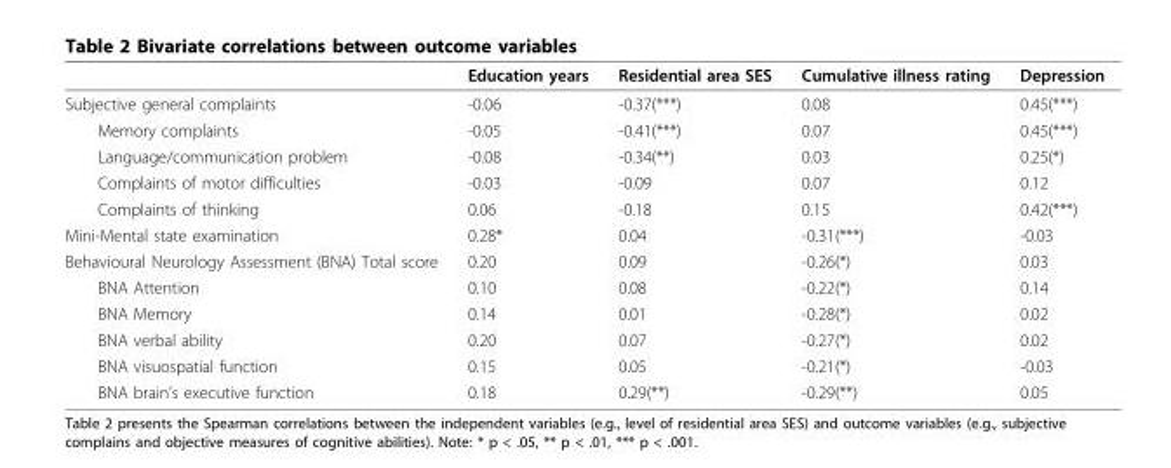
<table><thead><tr><td></td><td>Education years</td><td>Residential area SES</td><td>Cumulative illness rating</td><td>Depression</td></tr></thead><tbody><tr><td>Subjective general complaints</td><td>-0.06</td><td>-0.37(***)</td><td>0.08</td><td>0.45(***)</td></tr><tr><td>Memory complaints</td><td>-0.05</td><td>-0.41(***)</td><td>0.07</td><td>0.45(***)</td></tr><tr><td>Language/communication problem</td><td>-0.08</td><td>-0.34(**)</td><td>0.03</td><td>0.25(*)</td></tr><tr><td>Complaints of motor difficulties</td><td>-0.03</td><td>-0.09</td><td>0.07</td><td>0.12</td></tr><tr><td>Complaints of thinking</td><td>0.06</td><td>-0.18</td><td>0.15</td><td>0.42(***)</td></tr><tr><td>Mini-Mental state examination</td><td>0.28*</td><td>0.04</td><td>-0.31(***)</td><td>-0.03</td></tr><tr><td>Behavioural Neurology Assessment (BNA) Total score</td><td>0.20</td><td>0.09</td><td>-0.26(*)</td><td>0.03</td></tr><tr><td>BNA Attention</td><td>0.10</td><td>0.08</td><td>-0.22(*)</td><td>0.14</td></tr><tr><td>BNA Memory</td><td>0.14</td><td>0.01</td><td>-0.28(*)</td><td>0.02</td></tr><tr><td>BNA verbal ability</td><td>0.20</td><td>0.07</td><td>-0.27(*)</td><td>0.02</td></tr><tr><td>BNA visuospatial function</td><td>0.15</td><td>0.05</td><td>-0.21(*)</td><td>-0.03</td></tr><tr><td>BNA brain’s executive function</td><td>0.18</td><td>0.29(**)</td><td>-0.29(**)</td><td>0.05</td></tr></tbody></table>